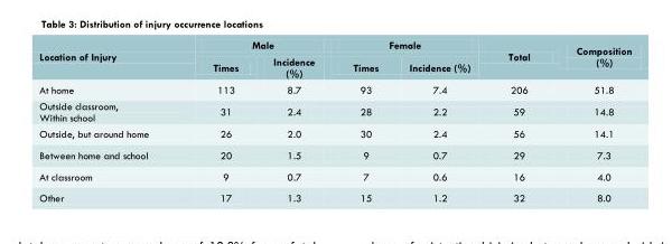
<table><thead><tr><td rowspan="2">Location of Injury</td><td colspan="2">Male</td><td colspan="2">Female</td><td rowspan="2">Total</td><td rowspan="2">Composition (%)</td></tr><tr><td>Times</td><td>Incidence (%)</td><td>Times</td><td>Incidence (%)</td></tr></thead><tbody><tr><td>At home</td><td>113</td><td>8.7</td><td>93</td><td>7.4</td><td>206</td><td>51.8</td></tr><tr><td>Outside classroom, Within school</td><td>31</td><td>2.4</td><td>28</td><td>2.2</td><td>59</td><td>14.8</td></tr><tr><td>Outside, but around home</td><td>26</td><td>2.0</td><td>30</td><td>2.4</td><td>56</td><td>14.1</td></tr><tr><td>Between home and school</td><td>20</td><td>1.5</td><td>9</td><td>0.7</td><td>29</td><td>7.3</td></tr><tr><td>At classroom</td><td>9</td><td>0.7</td><td>7</td><td>0.6</td><td>16</td><td>4.0</td></tr><tr><td>Other</td><td>17</td><td>1.3</td><td>15</td><td>1.2</td><td>32</td><td>8.0</td></tr></tbody></table>